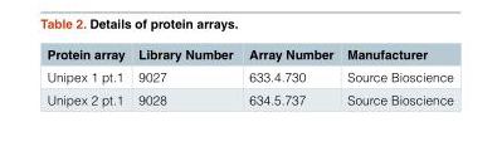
<table><thead><tr><td>Protein array</td><td>Library Number</td><td>Array Number</td><td>Manufacturer</td></tr></thead><tbody><tr><td>Unipex 1 pt.1</td><td>9027</td><td>633.4.730</td><td>Source Bioscience</td></tr><tr><td>Unipex 2 pt.1</td><td>9028</td><td>634.5.737</td><td>Source Bioscience</td></tr></tbody></table>